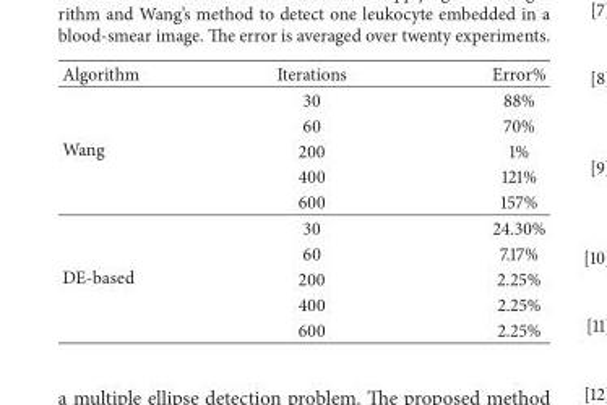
<table><thead><tr><td>Algorithm</td><td>Iterations</td><td>Error%</td></tr></thead><tbody><tr><td rowspan="5">Wang</td><td>30</td><td>88%</td></tr><tr><td>60</td><td>70%</td></tr><tr><td>200</td><td>1%</td></tr><tr><td>400</td><td>121%</td></tr><tr><td>600</td><td>157%</td></tr><tr><td rowspan="5">DE-based</td><td>30</td><td>24.30%</td></tr><tr><td>60</td><td>7.17%</td></tr><tr><td>200</td><td>2.25%</td></tr><tr><td>400</td><td>2.25%</td></tr><tr><td>600</td><td>2.25%</td></tr></tbody></table>